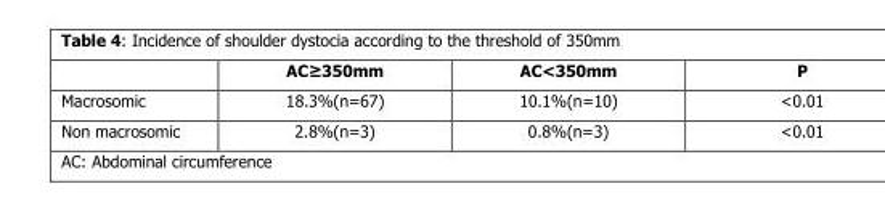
<table><thead><tr><td></td><td>AC≥350mm</td><td>AC&lt;350mm</td><td>P</td></tr></thead><tbody><tr><td>Macrosomic</td><td>18.3%(n=67)</td><td>10.1%(n=10)</td><td>&lt;0.01</td></tr><tr><td>Non macrosomic</td><td>2.8%(n=3)</td><td>0.8%(n=3)</td><td>&lt;0.01</td></tr></tbody></table>